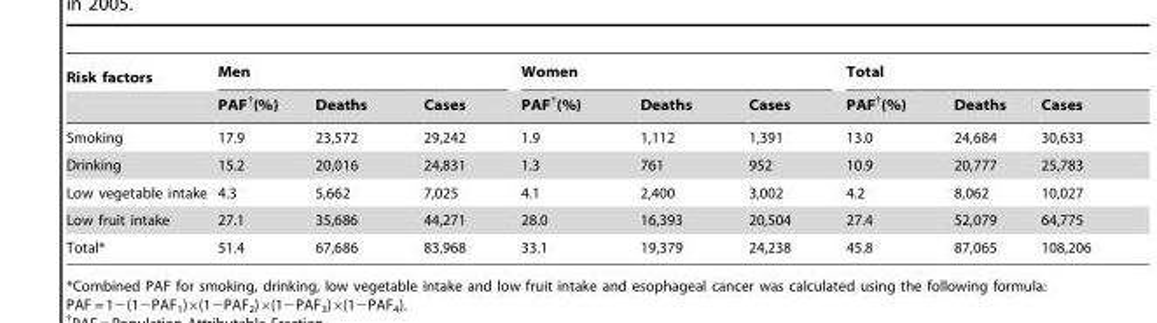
<table><thead><tr><td rowspan="2">Risk factors</td><td colspan="3">Men</td><td colspan="3">Women</td><td colspan="3">Total</td></tr><tr><td>PAF†(%)</td><td>Deaths</td><td>Cases</td><td>PAF†(%)</td><td>Deaths</td><td>Cases</td><td>PAF†(%)</td><td>Deaths</td><td>Cases</td></tr></thead><tbody><tr><td>Smoking</td><td>17.9</td><td>23,572</td><td>29,242</td><td>1.9</td><td>1,112</td><td>1,391</td><td>13.0</td><td>24,684</td><td>30,633</td></tr><tr><td>Drinking</td><td>15.2</td><td>20,016</td><td>24,831</td><td>1.3</td><td>761</td><td>952</td><td>10.9</td><td>20,777</td><td>25,783</td></tr><tr><td>Low vegetable intake</td><td>4.3</td><td>5,662</td><td>7,025</td><td>4.1</td><td>2,400</td><td>3,002</td><td>4.2</td><td>8,062</td><td>10,027</td></tr><tr><td>Low fruit intake</td><td>27.1</td><td>35,686</td><td>44,271</td><td>28.0</td><td>16,393</td><td>20,504</td><td>27.4</td><td>52,079</td><td>64,775</td></tr><tr><td>Total*</td><td>51.4</td><td>67,686</td><td>83,968</td><td>33.1</td><td>19,379</td><td>24,238</td><td>45.8</td><td>87,065</td><td>108,206</td></tr></tbody></table>